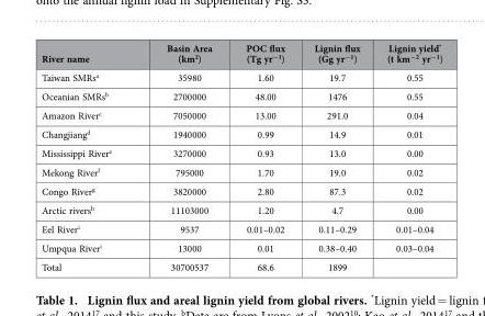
<table><thead><tr><td>River name</td><td>Basin Area (km<sup>2</sup>)</td><td>POC flux (Tg yr<sup>−1</sup>)</td><td>Lignin flux (Gg yr<sup>−1</sup>)</td><td>Lignin yield* (t km<sup>−2</sup> yr<sup>−1</sup>)</td></tr></thead><tbody><tr><td>Taiwan SMRs<sup>a</sup></td><td>35980</td><td>1.60</td><td>19.7</td><td>0.55</td></tr><tr><td>Oceanian SMRs<sup>b</sup></td><td>2700000</td><td>48.00</td><td>1476</td><td>0.55</td></tr><tr><td>Amazon River<sup>c</sup></td><td>7050000</td><td>13.00</td><td>291.0</td><td>0.04</td></tr><tr><td>Changjiang<sup>d</sup></td><td>1940000</td><td>0.99</td><td>14.9</td><td>0.01</td></tr><tr><td>Mississippi River<sup>e</sup></td><td>3270000</td><td>0.93</td><td>13.0</td><td>0.00</td></tr><tr><td>Mekong River<sup>f</sup></td><td>795000</td><td>1.70</td><td>19.0</td><td>0.02</td></tr><tr><td>Congo River<sup>g</sup></td><td>3820000</td><td>2.80</td><td>87.3</td><td>0.02</td></tr><tr><td>Arctic rivers<sup>h</sup></td><td>11103000</td><td>1.20</td><td>4.7</td><td>0.00</td></tr><tr><td>Eel River<sup>i</sup></td><td>9537</td><td>0.01–0.02</td><td>0.11–0.29</td><td>0.01–0.04</td></tr><tr><td>Umpqua River<sup>i</sup></td><td>13000</td><td>0.01</td><td>0.38–0.40</td><td>0.03–0.04</td></tr><tr><td>Total</td><td>30700537</td><td>68.6</td><td>1899</td><td></td></tr></tbody></table>